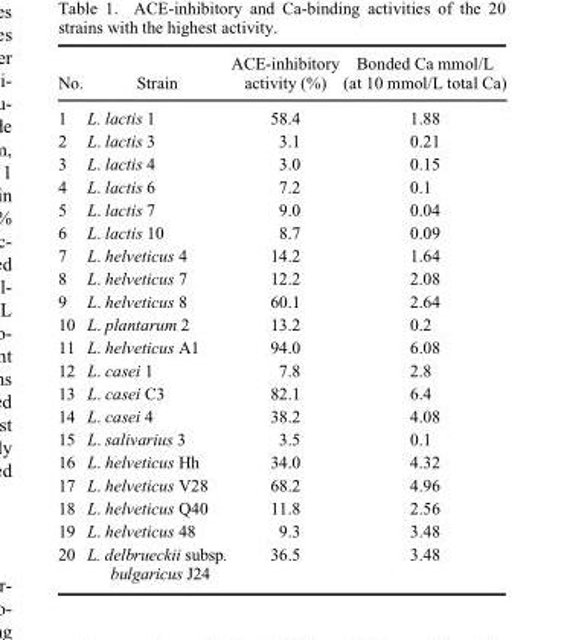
<table><thead><tr><td>No.</td><td>Strain</td><td>ACE-inhibitory activity (%)</td><td>Bonded Ca mmol/L (at 10 mmol/L total Ca)</td></tr></thead><tbody><tr><td>1</td><td>L. lactis 1</td><td>58.4</td><td>1.88</td></tr><tr><td>2</td><td>L. lactis 3</td><td>3.1</td><td>0.21</td></tr><tr><td>3</td><td>L. lactis 4</td><td>3.0</td><td>0.15</td></tr><tr><td>4</td><td>L. lactis 6</td><td>7.2</td><td>0.1</td></tr><tr><td>5</td><td>L. lactis 7</td><td>9.0</td><td>0.04</td></tr><tr><td>6</td><td>L. lactis 10</td><td>8.7</td><td>0.09</td></tr><tr><td>7</td><td>L. helveticus 4</td><td>14.2</td><td>1.64</td></tr><tr><td>8</td><td>L. helveticus 7</td><td>12.2</td><td>2.08</td></tr><tr><td>9</td><td>L. helveticus 8</td><td>60.1</td><td>2.64</td></tr><tr><td>10</td><td>L. plantarum 2</td><td>13.2</td><td>0.2</td></tr><tr><td>11</td><td>L. helveticus A1</td><td>94.0</td><td>6.08</td></tr><tr><td>12</td><td>L. casei 1</td><td>7.8</td><td>2.8</td></tr><tr><td>13</td><td>L. casei C3</td><td>82.1</td><td>6.4</td></tr><tr><td>14</td><td>L. casei 4</td><td>38.2</td><td>4.08</td></tr><tr><td>15</td><td>L. salivarius 3</td><td>3.5</td><td>0.1</td></tr><tr><td>16</td><td>L. helveticus Hh</td><td>34.0</td><td>4.32</td></tr><tr><td>17</td><td>L. helveticus V28</td><td>68.2</td><td>4.96</td></tr><tr><td>18</td><td>L. helveticus Q40</td><td>11.8</td><td>2.56</td></tr><tr><td>19</td><td>L. helveticus 48</td><td>9.3</td><td>3.48</td></tr><tr><td>20</td><td>L. delbrueckii subsp. bulgaricus J24</td><td>36.5</td><td>3.48</td></tr></tbody></table>